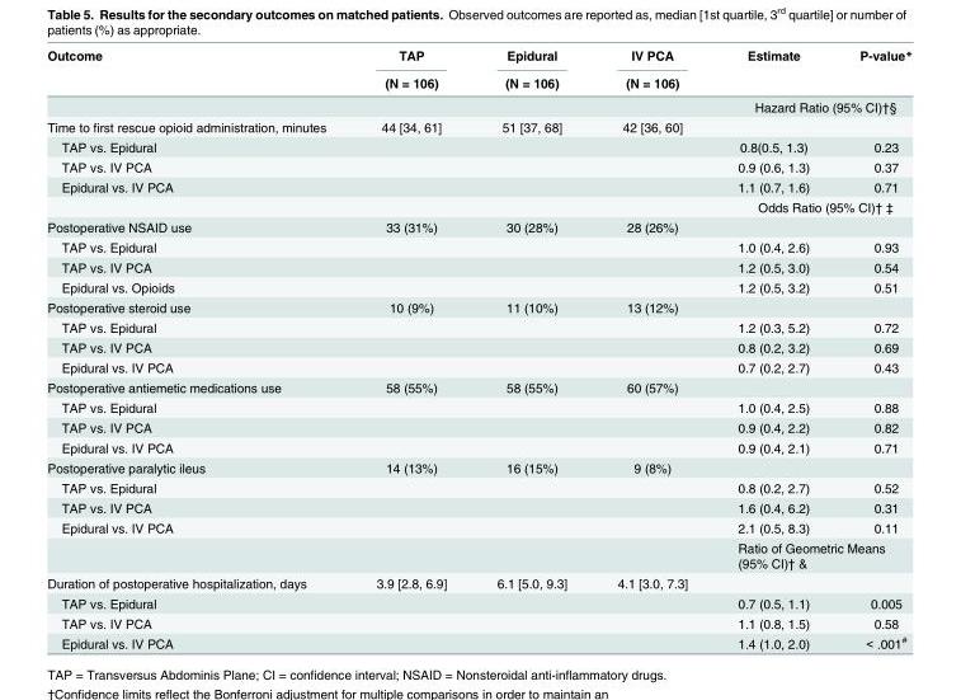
<table><thead><tr><td rowspan="2">Outcome</td><td rowspan="2">TAP (N = 106)</td><td rowspan="2">Epidural (N = 106)</td><td rowspan="2">IV PCA (N = 106)</td><td rowspan="2">Estimate</td><td rowspan="2">P-value*</td></tr><tr></tr></thead><tbody><tr><td></td><td></td><td></td><td></td><td colspan="2">Hazard Ratio (95% CI)†§</td></tr><tr><td>Time to first rescue opioid administration, minutes</td><td>44 [34, 61]</td><td>51 [37, 68]</td><td>42 [36, 60]</td><td></td><td></td></tr><tr><td>TAP vs. Epidural</td><td></td><td></td><td></td><td>0.8(0.5, 1.3)</td><td>0.23</td></tr><tr><td>TAP vs. IV PCA</td><td></td><td></td><td></td><td>0.9 (0.6, 1.3)</td><td>0.37</td></tr><tr><td rowspan="2">Epidural vs. IV PCA</td><td></td><td></td><td></td><td>1.1 (0.7, 1.6)</td><td>0.71</td></tr><tr><td></td><td></td><td></td><td colspan="2">Odds Ratio (95% CI)† ‡</td></tr><tr><td>Postoperative NSAID use</td><td>33 (31%)</td><td>30 (28%)</td><td>28 (26%)</td><td></td><td></td></tr><tr><td>TAP vs. Epidural</td><td></td><td></td><td></td><td>1.0 (0.4, 2.6)</td><td>0.93</td></tr><tr><td>TAP vs. IV PCA</td><td></td><td></td><td></td><td>1.2 (0.5, 3.0)</td><td>0.54</td></tr><tr><td>Epidural vs. Opioids</td><td></td><td></td><td></td><td>1.2 (0.5, 3.2)</td><td>0.51</td></tr><tr><td>Postoperative steroid use</td><td>10 (9%)</td><td>11 (10%)</td><td>13 (12%)</td><td></td><td></td></tr><tr><td>TAP vs. Epidural</td><td></td><td></td><td></td><td>1.2 (0.3, 5.2)</td><td>0.72</td></tr><tr><td>TAP vs. IV PCA</td><td></td><td></td><td></td><td>0.8 (0.2, 3.2)</td><td>0.69</td></tr><tr><td>Epidural vs. IV PCA</td><td></td><td></td><td></td><td>0.7 (0.2, 2.7)</td><td>0.43</td></tr><tr><td>Postoperative antiemetic medications use</td><td>58 (55%)</td><td>58 (55%)</td><td>60 (57%)</td><td></td><td></td></tr><tr><td>TAP vs. Epidural</td><td></td><td></td><td></td><td>1.0 (0.4, 2.5)</td><td>0.88</td></tr><tr><td>TAP vs. IV PCA</td><td></td><td></td><td></td><td>0.9 (0.4, 2.2)</td><td>0.82</td></tr><tr><td>Epidural vs. IV PCA</td><td></td><td></td><td></td><td>0.9 (0.4, 2.1)</td><td>0.71</td></tr><tr><td>Postoperative paralytic ileus</td><td>14 (13%)</td><td>16 (15%)</td><td>9 (8%)</td><td></td><td></td></tr><tr><td>TAP vs. Epidural</td><td></td><td></td><td></td><td>0.8 (0.2, 2.7)</td><td>0.52</td></tr><tr><td>TAP vs. IV PCA</td><td></td><td></td><td></td><td>1.6 (0.4, 6.2)</td><td>0.31</td></tr><tr><td rowspan="2">Epidural vs. IV PCA</td><td></td><td></td><td></td><td>2.1 (0.5, 8.3)</td><td>0.11</td></tr><tr><td></td><td></td><td></td><td colspan="2">Ratio of Geometric Means (95% CI)† &amp;</td></tr><tr><td>Duration of postoperative hospitalization, days</td><td>3.9 [2.8, 6.9]</td><td>6.1 [5.0, 9.3]</td><td>4.1 [3.0, 7.3]</td><td></td><td></td></tr><tr><td>TAP vs. Epidural</td><td></td><td></td><td></td><td>0.7 (0.5, 1.1)</td><td>0.005</td></tr><tr><td>TAP vs. IV PCA</td><td></td><td></td><td></td><td>1.1 (0.8, 1.5)</td><td>0.58</td></tr><tr><td>Epidural vs. IV PCA</td><td></td><td></td><td></td><td>1.4 (1.0, 2.0)</td><td>&lt; .001<sup>#</sup></td></tr></tbody></table>